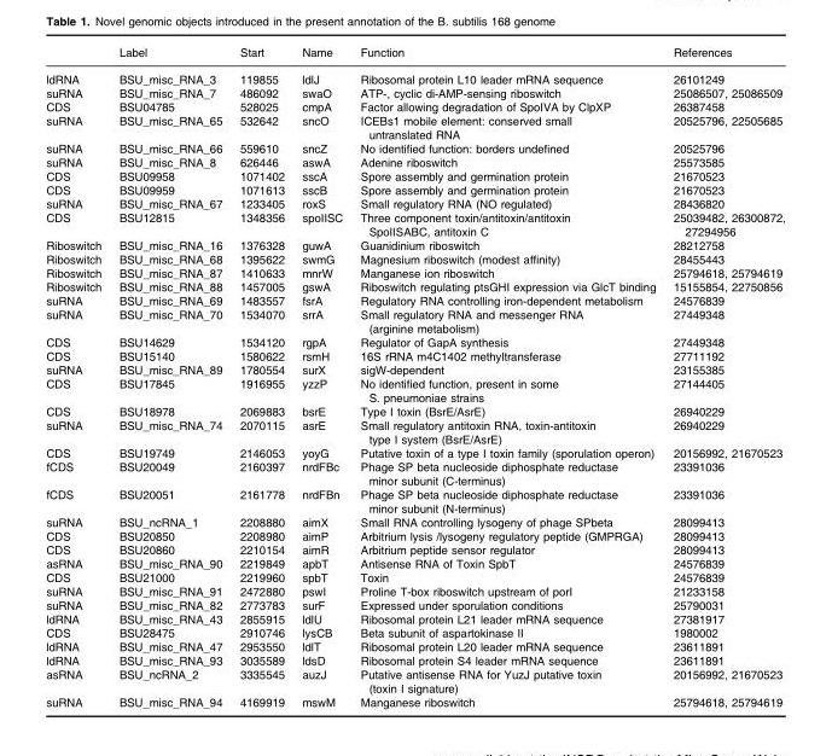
<table><thead><tr><td></td><td>Label</td><td>Start</td><td>Name</td><td>Function</td><td>References</td></tr></thead><tbody><tr><td>ldRNA</td><td>BSU_misc_RNA_3</td><td>119855</td><td>ldlJ</td><td>Ribosomal protein L10 leader mRNA sequence</td><td>26101249</td></tr><tr><td>suRNA</td><td>BSU_misc_RNA_7</td><td>486092</td><td>swaO</td><td>ATP-, cyclic di-AMP-sensing riboswitch</td><td>25086507, 25086509</td></tr><tr><td>CDS</td><td>BSU04785</td><td>528025</td><td>cmpA</td><td>Factor allowing degradation of SpoIVA by ClpXP</td><td>26387458</td></tr><tr><td>suRNA</td><td>BSU_misc_RNA_65</td><td>532642</td><td>sncO</td><td>ICEBs1 mobile element: conserved small untranslated RNA</td><td>20525796, 22505685</td></tr><tr><td>suRNA</td><td>BSU_misc_RNA_66</td><td>559610</td><td>sncZ</td><td>No identified function: borders undefined</td><td>20525796</td></tr><tr><td>suRNA</td><td>BSU_misc_RNA_8</td><td>626446</td><td>aswA</td><td>Adenine riboswitch</td><td>25573585</td></tr><tr><td>CDS</td><td>BSU09958</td><td>1071402</td><td>sscA</td><td>Spore assembly and germination protein</td><td>21670523</td></tr><tr><td>CDS</td><td>BSU09959</td><td>1071613</td><td>sscB</td><td>Spore assembly and germination protein</td><td>21670523</td></tr><tr><td>suRNA</td><td>BSU_misc_RNA_67</td><td>1233405</td><td>roxS</td><td>Small regulatory RNA (NO regulated)</td><td>28436820</td></tr><tr><td>CDS</td><td>BSU12815</td><td>1348356</td><td>spoIISC</td><td>Three component toxin/antitoxin/antitoxin SpoIISABC, antitoxin C</td><td>25039482, 26300872, 27294956</td></tr><tr><td>Riboswitch</td><td>BSU_misc_RNA_16</td><td>1376328</td><td>guwA</td><td>Guanidinium riboswitch</td><td>28212758</td></tr><tr><td>Riboswitch</td><td>BSU_misc_RNA_68</td><td>1395622</td><td>swmG</td><td>Magnesium riboswitch (modest affinity)</td><td>28455443</td></tr><tr><td>Riboswitch</td><td>BSU_misc_RNA_87</td><td>1410633</td><td>mnrW</td><td>Manganese ion riboswitch</td><td>25794618, 25794619</td></tr><tr><td>Riboswitch</td><td>BSU_misc_RNA_88</td><td>1457005</td><td>gswA</td><td>Riboswitch regulating ptsGHI expression via GlcT binding</td><td>15155854, 22750856</td></tr><tr><td>suRNA</td><td>BSU_misc_RNA_69</td><td>1483557</td><td>fsrA</td><td>Regulatory RNA controlling iron-dependent metabolism</td><td>24576839</td></tr><tr><td>suRNA</td><td>BSU_misc_RNA_70</td><td>1534070</td><td>srrA</td><td>Small regulatory RNA and messenger RNA (arginine metabolism)</td><td>27449348</td></tr><tr><td>CDS</td><td>BSU14629</td><td>1534120</td><td>rgpA</td><td>Regulator of GapA synthesis</td><td>27449348</td></tr><tr><td>CDS</td><td>BSU15140</td><td>1580622</td><td>rsmH</td><td>16S rRNA m4C1402 methyltransferase</td><td>27711192</td></tr><tr><td>suRNA</td><td>BSU_misc_RNA_89</td><td>1780554</td><td>surX</td><td>sigW-dependent</td><td>23155385</td></tr><tr><td>CDS</td><td>BSU17845</td><td>1916955</td><td>yzzP</td><td>No identified function, present in some S. pneumoniae strains</td><td>27144405</td></tr><tr><td>CDS</td><td>BSU18978</td><td>2069883</td><td>bsrE</td><td>Type I toxin (BsrE/AsrE)</td><td>26940229</td></tr><tr><td>suRNA</td><td>BSU_misc_RNA_74</td><td>2070115</td><td>asrE</td><td>Small regulatory antitoxin RNA, toxin-antitoxin type I system (BsrE/AsrE)</td><td>26940229</td></tr><tr><td>CDS</td><td>BSU19749</td><td>2146053</td><td>yoyG</td><td>Putative toxin of a type I toxin family (sporulation operon)</td><td>20156992, 21670523</td></tr><tr><td>fCDS</td><td>BSU20049</td><td>2160397</td><td>nrdFBc</td><td>Phage SP beta nucleoside diphosphate reductase minor subunit (C-terminus)</td><td>23391036</td></tr><tr><td>fCDS</td><td>BSU20051</td><td>2161778</td><td>nrdFBn</td><td>Phage SP beta nucleoside diphosphate reductase minor subunit (N-terminus)</td><td>23391036</td></tr><tr><td>suRNA</td><td>BSU_ncRNA_1</td><td>2208880</td><td>aimX</td><td>Small RNA controlling lysogeny of phage SPbeta</td><td>28099413</td></tr><tr><td>CDS</td><td>BSU20850</td><td>2208980</td><td>aimP</td><td>Arbitrium lysis /lysogeny regulatory peptide (GMPRGA)</td><td>28099413</td></tr><tr><td>CDS</td><td>BSU20860</td><td>2210154</td><td>aimR</td><td>Arbitrium peptide sensor regulator</td><td>28099413</td></tr><tr><td>asRNA</td><td>BSU_misc_RNA_90</td><td>2219849</td><td>apbT</td><td>Antisense RNA of Toxin SpbT</td><td>24576839</td></tr><tr><td>CDS</td><td>BSU21000</td><td>2219960</td><td>spbT</td><td>Toxin</td><td>24576839</td></tr><tr><td>suRNA</td><td>BSU_misc_RNA_91</td><td>2472880</td><td>pswI</td><td>Proline T-box riboswitch upstream of porI</td><td>21233158</td></tr><tr><td>suRNA</td><td>BSU_misc_RNA_82</td><td>2773783</td><td>surF</td><td>Expressed under sporulation conditions</td><td>25790031</td></tr><tr><td>ldRNA</td><td>BSU_misc_RNA_43</td><td>2855915</td><td>ldlU</td><td>Ribosomal protein L21 leader mRNA sequence</td><td>27381917</td></tr><tr><td>CDS</td><td>BSU28475</td><td>2910746</td><td>lysCB</td><td>Beta subunit of aspartokinase II</td><td>1980002</td></tr><tr><td>ldRNA</td><td>BSU_misc_RNA_47</td><td>2953550</td><td>ldlT</td><td>Ribosomal protein L20 leader mRNA sequence</td><td>23611891</td></tr><tr><td>ldRNA</td><td>BSU_misc_RNA_93</td><td>3035589</td><td>ldsD</td><td>Ribosomal protein S4 leader mRNA sequence</td><td>23611891</td></tr><tr><td>asRNA</td><td>BSU_ncRNA_2</td><td>3335545</td><td>auzJ</td><td>Putative antisense RNA for YuzJ putative toxin (toxin I signature)</td><td>20156992, 21670523</td></tr><tr><td>suRNA</td><td>BSU_misc_RNA_94</td><td>4169919</td><td>mswM</td><td>Manganese riboswitch</td><td>25794618, 25794619</td></tr></tbody></table>